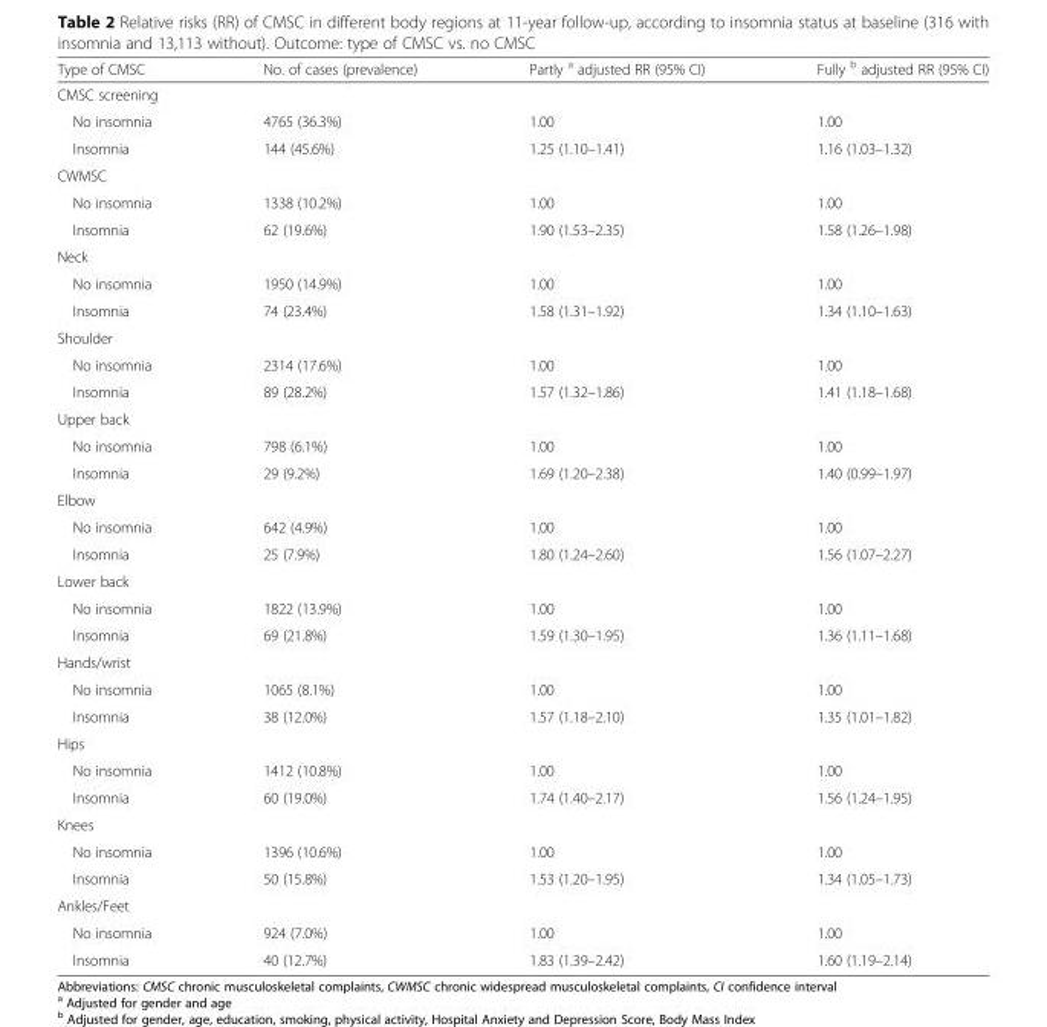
<table><thead><tr><td>Type of CMSC</td><td>No. of cases (prevalence)</td><td>Partly <sup>a</sup> adjusted RR (95% CI)</td><td>Fully <sup>b</sup> adjusted RR (95% CI)</td></tr></thead><tbody><tr><td colspan="4">CMSC screening</td></tr><tr><td>No insomnia</td><td>4765 (36.3%)</td><td>1.00</td><td>1.00</td></tr><tr><td>Insomnia</td><td>144 (45.6%)</td><td>1.25 (1.10–1.41)</td><td>1.16 (1.03–1.32)</td></tr><tr><td colspan="4">CWMSC</td></tr><tr><td>No insomnia</td><td>1338 (10.2%)</td><td>1.00</td><td>1.00</td></tr><tr><td>Insomnia</td><td>62 (19.6%)</td><td>1.90 (1.53–2.35)</td><td>1.58 (1.26–1.98)</td></tr><tr><td colspan="4">Neck</td></tr><tr><td>No insomnia</td><td>1950 (14.9%)</td><td>1.00</td><td>1.00</td></tr><tr><td>Insomnia</td><td>74 (23.4%)</td><td>1.58 (1.31–1.92)</td><td>1.34 (1.10–1.63)</td></tr><tr><td colspan="4">Shoulder</td></tr><tr><td>No insomnia</td><td>2314 (17.6%)</td><td>1.00</td><td>1.00</td></tr><tr><td>Insomnia</td><td>89 (28.2%)</td><td>1.57 (1.32–1.86)</td><td>1.41 (1.18–1.68)</td></tr><tr><td colspan="4">Upper back</td></tr><tr><td>No insomnia</td><td>798 (6.1%)</td><td>1.00</td><td>1.00</td></tr><tr><td>Insomnia</td><td>29 (9.2%)</td><td>1.69 (1.20–2.38)</td><td>1.40 (0.99–1.97)</td></tr><tr><td colspan="4">Elbow</td></tr><tr><td>No insomnia</td><td>642 (4.9%)</td><td>1.00</td><td>1.00</td></tr><tr><td>Insomnia</td><td>25 (7.9%)</td><td>1.80 (1.24–2.60)</td><td>1.56 (1.07–2.27)</td></tr><tr><td colspan="4">Lower back</td></tr><tr><td>No insomnia</td><td>1822 (13.9%)</td><td>1.00</td><td>1.00</td></tr><tr><td>Insomnia</td><td>69 (21.8%)</td><td>1.59 (1.30–1.95)</td><td>1.36 (1.11–1.68)</td></tr><tr><td colspan="4">Hands/wrist</td></tr><tr><td>No insomnia</td><td>1065 (8.1%)</td><td>1.00</td><td>1.00</td></tr><tr><td>Insomnia</td><td>38 (12.0%)</td><td>1.57 (1.18–2.10)</td><td>1.35 (1.01–1.82)</td></tr><tr><td colspan="4">Hips</td></tr><tr><td>No insomnia</td><td>1412 (10.8%)</td><td>1.00</td><td>1.00</td></tr><tr><td>Insomnia</td><td>60 (19.0%)</td><td>1.74 (1.40–2.17)</td><td>1.56 (1.24–1.95)</td></tr><tr><td colspan="4">Knees</td></tr><tr><td>No insomnia</td><td>1396 (10.6%)</td><td>1.00</td><td>1.00</td></tr><tr><td>Insomnia</td><td>50 (15.8%)</td><td>1.53 (1.20–1.95)</td><td>1.34 (1.05–1.73)</td></tr><tr><td colspan="4">Ankles/Feet</td></tr><tr><td>No insomnia</td><td>924 (7.0%)</td><td>1.00</td><td>1.00</td></tr><tr><td>Insomnia</td><td>40 (12.7%)</td><td>1.83 (1.39–2.42)</td><td>1.60 (1.19–2.14)</td></tr></tbody></table>